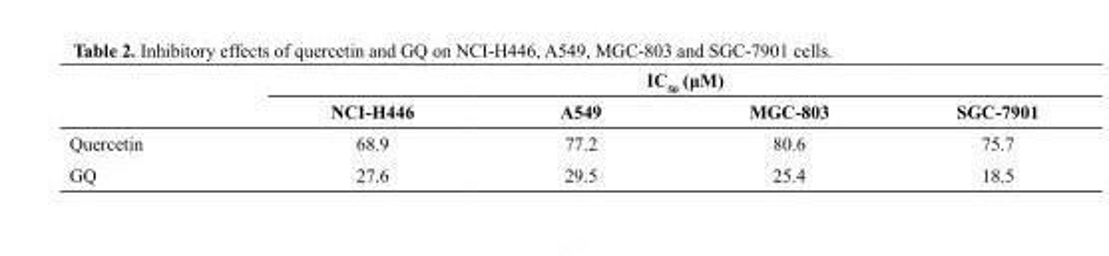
<table><thead><tr><td rowspan="2"></td><td colspan="4">IC<sub>50</sub> (μM)</td></tr><tr><td>NCI-H446</td><td>A549</td><td>MGC-803</td><td>SGC-7901</td></tr></thead><tbody><tr><td>Quercetin</td><td>68.9</td><td>77.2</td><td>80.6</td><td>75.7</td></tr><tr><td>GQ</td><td>27.6</td><td>29.5</td><td>25.4</td><td>18.5</td></tr></tbody></table>